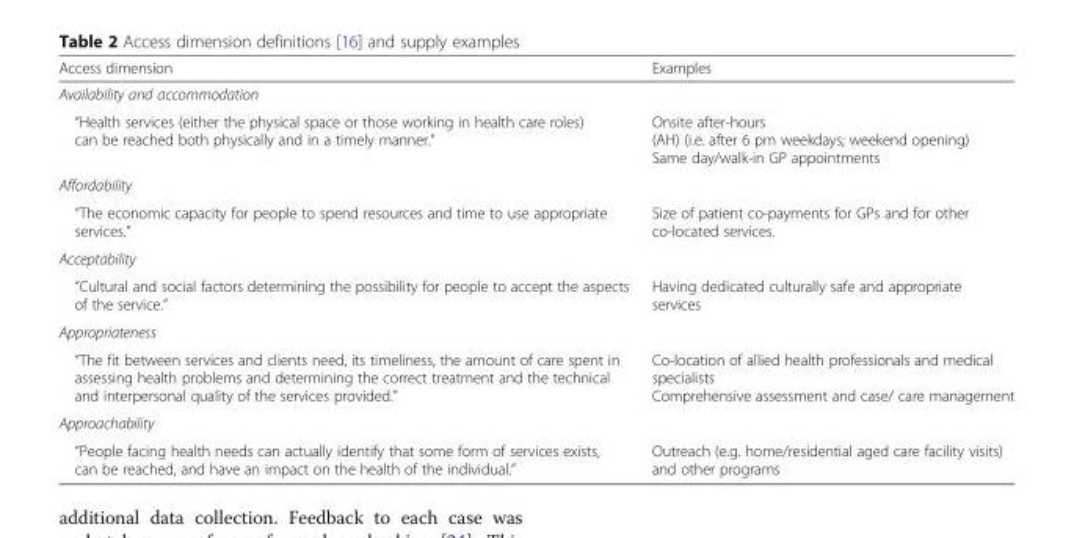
<table><thead><tr><td>Access dimension</td><td>Examples</td></tr></thead><tbody><tr><td colspan="2">Availability and accommodation</td></tr><tr><td>“Health services (either the physical space or those working in health care roles) can be reached both physically and in a timely manner.”</td><td>Onsite after-hours (AH) (i.e. after 6 pm weekdays; weekend opening) Same day/walk-in GP appointments</td></tr><tr><td colspan="2">Affordability</td></tr><tr><td>“The economic capacity for people to spend resources and time to use appropriate services.”</td><td>Size of patient co-payments for GPs and for other co-located services.</td></tr><tr><td colspan="2">Acceptability</td></tr><tr><td>“Cultural and social factors determining the possibility for people to accept the aspects of the service.”</td><td>Having dedicated culturally safe and appropriate services</td></tr><tr><td colspan="2">Appropriateness</td></tr><tr><td>“The fit between services and clients need, its timeliness, the amount of care spent in assessing health problems and determining the correct treatment and the technical and interpersonal quality of the services provided.”</td><td>Co-location of allied health professionals and medical specialists Comprehensive assessment and case/ care management</td></tr><tr><td colspan="2">Approachability</td></tr><tr><td>“People facing health needs can actually identify that some form of services exists, can be reached, and have an impact on the health of the individual.”</td><td>Outreach (e.g. home/residential aged care facility visits) and other programs</td></tr></tbody></table>